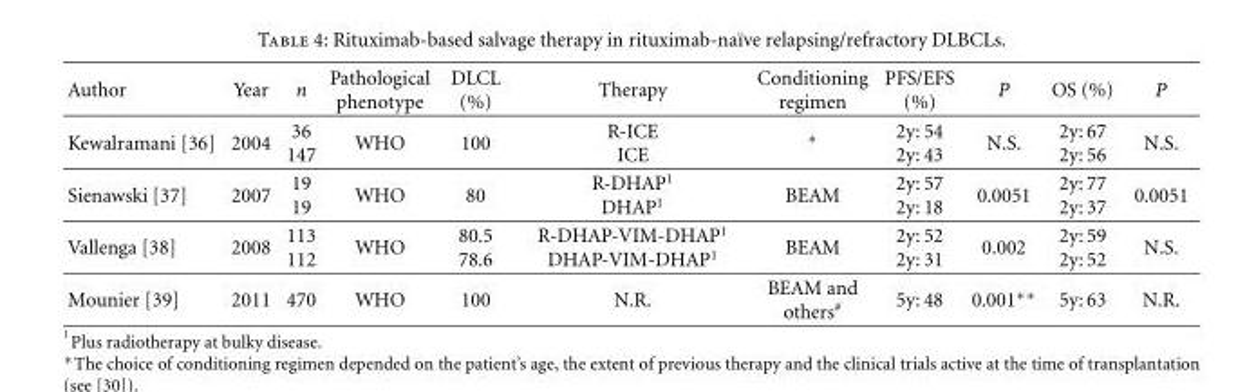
<table><thead><tr><td>Author</td><td>Year</td><td>n</td><td>Pathological phenotype</td><td>DLCL (%)</td><td>Therapy</td><td>Conditioning regimen</td><td>PFS/EFS (%)</td><td>P</td><td>OS (%)</td><td>P</td></tr></thead><tbody><tr><td>Kewalramani [36]</td><td>2004</td><td>36 147</td><td>WHO</td><td>100</td><td>R-ICE ICE</td><td>∗</td><td>2y: 54 2y: 43</td><td>N.S.</td><td>2y: 67 2y: 56</td><td>N.S.</td></tr><tr><td>Sienawski [37]</td><td>2007</td><td>19 19</td><td>WHO</td><td>80</td><td>R-DHAP<sup>1</sup> DHAP<sup>1</sup></td><td>BEAM</td><td>2y: 57 2y: 18</td><td>0.0051</td><td>2y: 77 2y: 37</td><td>0.0051</td></tr><tr><td>Vallenga [38]</td><td>2008</td><td>113 112</td><td>WHO</td><td>80.5 78.6</td><td>R-DHAP-VIM-DHAP<sup>1</sup> DHAP-VIM-DHAP<sup>1</sup></td><td>BEAM</td><td>2y: 52 2y: 31</td><td>0.002</td><td>2y: 59 2y: 52</td><td>N.S.</td></tr><tr><td>Mounier [39]</td><td>2011</td><td>470</td><td>WHO</td><td>100</td><td>N.R.</td><td>BEAM and others<sup>#</sup></td><td>5y: 48</td><td>0.001∗∗</td><td>5y: 63</td><td>N.R.</td></tr></tbody></table>